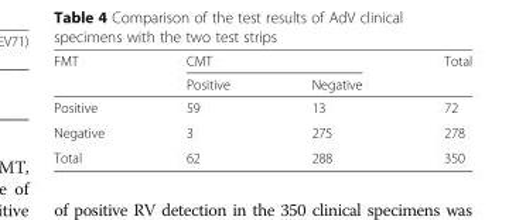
<table><thead><tr><td rowspan="2">FMT</td><td colspan="2">CMT</td><td rowspan="2">Total</td></tr><tr><td>Positive</td><td>Negative</td></tr></thead><tbody><tr><td>Positive</td><td>59</td><td>13</td><td>72</td></tr><tr><td>Negative</td><td>3</td><td>275</td><td>278</td></tr><tr><td>Total</td><td>62</td><td>288</td><td>350</td></tr></tbody></table>